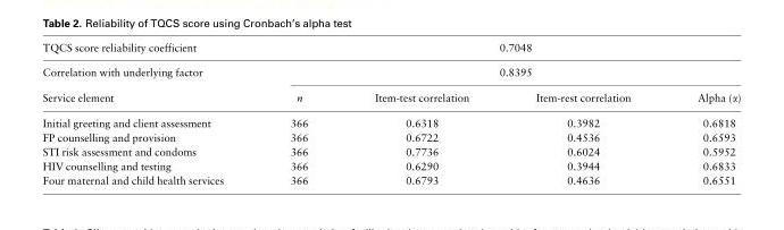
<table><thead><tr><td rowspan="3">TQCS score reliability coefficient Correlation with underlying factor Service element</td><td rowspan="2" colspan="4">0.7048 0.8395</td></tr><tr></tr><tr><td>n</td><td>Item-test correlation</td><td>Item-rest correlation</td><td>Alpha (α)</td></tr></thead><tbody><tr><td>Initial greeting and client assessment</td><td>366</td><td>0.6318</td><td>0.3982</td><td>0.6818</td></tr><tr><td>FP counselling and provision</td><td>366</td><td>0.6722</td><td>0.4536</td><td>0.6593</td></tr><tr><td>STI risk assessment and condoms</td><td>366</td><td>0.7736</td><td>0.6024</td><td>0.5952</td></tr><tr><td>HIV counselling and testing</td><td>366</td><td>0.6290</td><td>0.3944</td><td>0.6833</td></tr><tr><td>Four maternal and child health services</td><td>366</td><td>0.6793</td><td>0.4636</td><td>0.6551</td></tr></tbody></table>